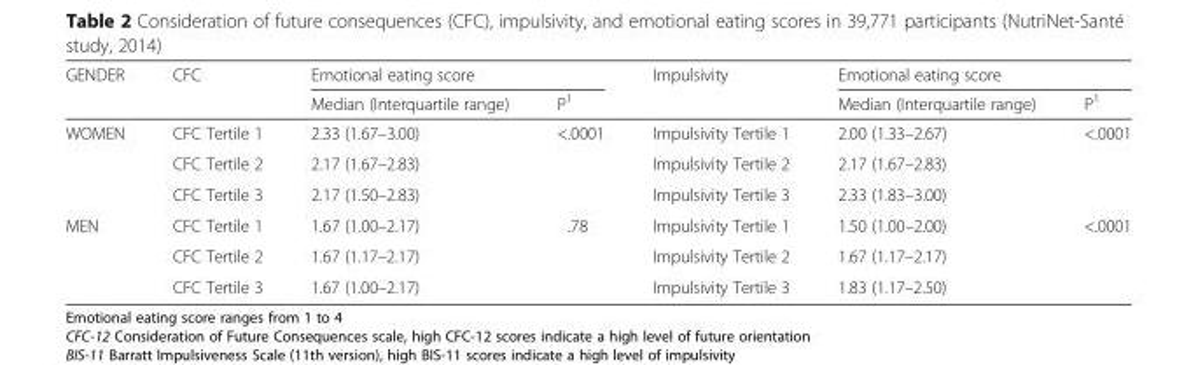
<table><thead><tr><td rowspan="2">GENDER</td><td rowspan="2">CFC</td><td colspan="2">Emotional eating score</td><td rowspan="2">Impulsivity</td><td colspan="2">Emotional eating score</td></tr><tr><td>Median (Interquartile range)</td><td>P<sup>1</sup></td><td>Median (Interquartile range)</td><td>P<sup>1</sup></td></tr></thead><tbody><tr><td rowspan="3">WOMEN</td><td>CFC Tertile 1</td><td>2.33 (1.67–3.00)</td><td rowspan="3">&lt;.0001</td><td>Impulsivity Tertile 1</td><td>2.00 (1.33–2.67)</td><td rowspan="3">&lt;.0001</td></tr><tr><td>CFC Tertile 2</td><td>2.17 (1.67–2.83)</td><td>Impulsivity Tertile 2</td><td>2.17 (1.67–2.83)</td></tr><tr><td>CFC Tertile 3</td><td>2.17 (1.50–2.83)</td><td>Impulsivity Tertile 3</td><td>2.33 (1.83–3.00)</td></tr><tr><td rowspan="3">MEN</td><td>CFC Tertile 1</td><td>1.67 (1.00–2.17)</td><td rowspan="3">.78</td><td>Impulsivity Tertile 1</td><td>1.50 (1.00–2.00)</td><td rowspan="3">&lt;.0001</td></tr><tr><td>CFC Tertile 2</td><td>1.67 (1.17–2.17)</td><td>Impulsivity Tertile 2</td><td>1.67 (1.17–2.17)</td></tr><tr><td>CFC Tertile 3</td><td>1.67 (1.00–2.17)</td><td>Impulsivity Tertile 3</td><td>1.83 (1.17–2.50)</td></tr></tbody></table>